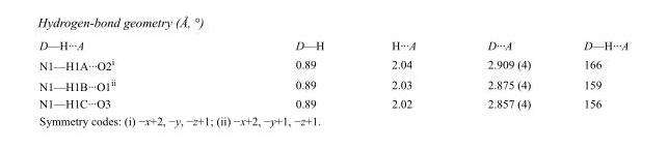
<table><tbody><tr><td>D—H···A</td><td>D—H</td><td>H···A</td><td>D···A</td><td>D—H···A</td></tr><tr><td>N1—H1A···O2<sup>i</sup></td><td>0.89</td><td>2.04</td><td>2.909 (4)</td><td>166</td></tr><tr><td>N1—H1B···O1<sup>ii</sup></td><td>0.89</td><td>2.03</td><td>2.875 (4)</td><td>159</td></tr><tr><td>N1—H1C···O3</td><td>0.89</td><td>2.02</td><td>2.857 (4)</td><td>156</td></tr></tbody></table>